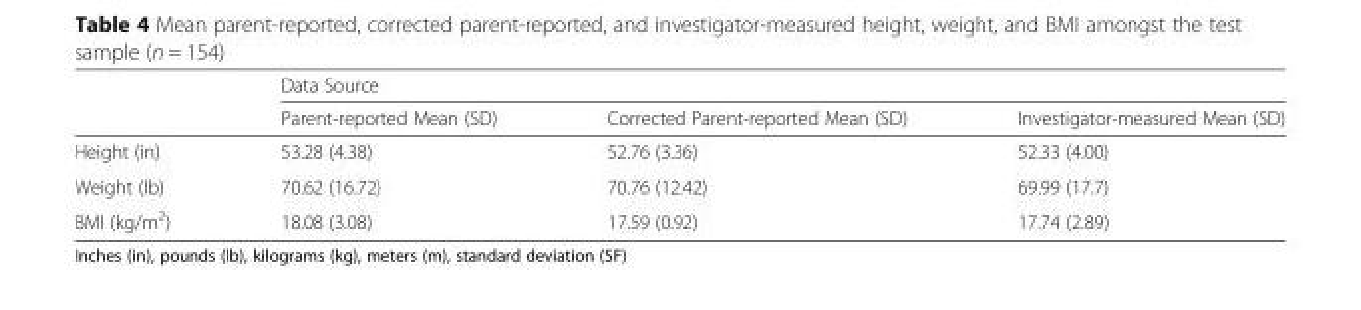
<table><thead><tr><td rowspan="2"></td><td colspan="3">Data Source</td></tr><tr><td>Parent-reported Mean (SD)</td><td>Corrected Parent-reported Mean (SD)</td><td>Investigator-measured Mean (SD)</td></tr></thead><tbody><tr><td>Height (in)</td><td>53.28 (4.38)</td><td>52.76 (3.36)</td><td>52.33 (4.00)</td></tr><tr><td>Weight (lb)</td><td>70.62 (16.72)</td><td>70.76 (12.42)</td><td>69.99 (17.7)</td></tr><tr><td>BMI (kg/m<sup>2</sup>)</td><td>18.08 (3.08)</td><td>17.59 (0.92)</td><td>17.74 (2.89)</td></tr></tbody></table>